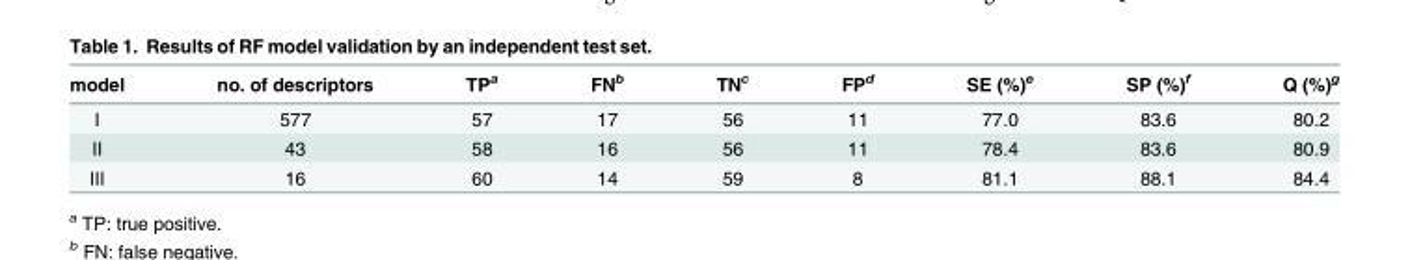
<table><thead><tr><td>model</td><td>no. of descriptors</td><td>TP<sup>a</sup></td><td>FN<sup>b</sup></td><td>TN<sup>c</sup></td><td>FP<sup>d</sup></td><td>SE (%)<sup>e</sup></td><td>SP (%)<sup>f</sup></td><td>Q (%)<sup>g</sup></td></tr></thead><tbody><tr><td>I</td><td>577</td><td>57</td><td>17</td><td>56</td><td>11</td><td>77.0</td><td>83.6</td><td>80.2</td></tr><tr><td>II</td><td>43</td><td>58</td><td>16</td><td>56</td><td>11</td><td>78.4</td><td>83.6</td><td>80.9</td></tr><tr><td>III</td><td>16</td><td>60</td><td>14</td><td>59</td><td>8</td><td>81.1</td><td>88.1</td><td>84.4</td></tr></tbody></table>